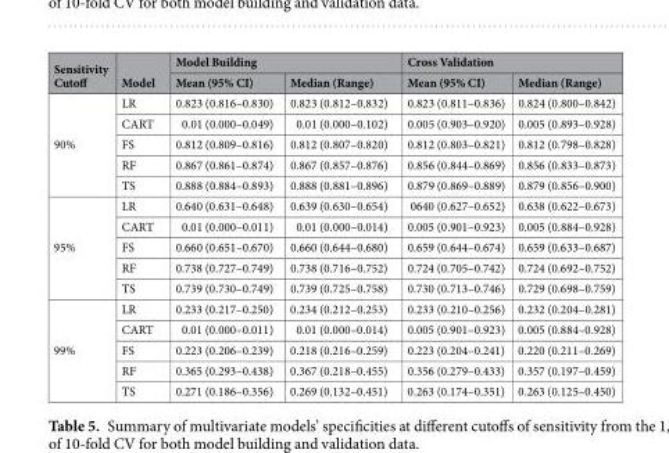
<table><thead><tr><td rowspan="2">Sensitivity Cutoff</td><td rowspan="2">Model</td><td colspan="2">Model Building</td><td colspan="2">Cross Validation</td></tr><tr><td>Mean (95% CI)</td><td>Median (Range)</td><td>Mean (95% CI)</td><td>Median (Range)</td></tr></thead><tbody><tr><td rowspan="5">90%</td><td>LR</td><td>0.823 (0.816–0.830)</td><td>0.823 (0.812–0.832)</td><td>0.823 (0.811–0.836)</td><td>0.824 (0.800–0.842)</td></tr><tr><td>CART</td><td>0.01 (0.000–0.049)</td><td>0.01 (0.000–0.102)</td><td>0.005 (0.903–0.920)</td><td>0.005 (0.893–0.928)</td></tr><tr><td>FS</td><td>0.812 (0.809–0.816)</td><td>0.812 (0.807–0.820)</td><td>0.812 (0.803–0.821)</td><td>0.812 (0.798–0.828)</td></tr><tr><td>RF</td><td>0.867 (0.861–0.874)</td><td>0.867 (0.857–0.876)</td><td>0.856 (0.844–0.869)</td><td>0.856 (0.833–0.873)</td></tr><tr><td>TS</td><td>0.888 (0.884–0.893)</td><td>0.888 (0.881–0.896)</td><td>0.879 (0.869–0.889)</td><td>0.879 (0.856–0.900)</td></tr><tr><td rowspan="5">95%</td><td>LR</td><td>0.640 (0.631–0.648)</td><td>0.639 (0.630–0.654)</td><td>0640 (0.627–0.652)</td><td>0.638 (0.622–0.673)</td></tr><tr><td>CART</td><td>0.01 (0.000–0.011)</td><td>0.01 (0.000–0.014)</td><td>0.005 (0.901–0.923)</td><td>0.005 (0.884–0.928)</td></tr><tr><td>FS</td><td>0.660 (0.651–0.670)</td><td>0.660 (0.644–0.680)</td><td>0.659 (0.644–0.674)</td><td>0.659 (0.633–0.687)</td></tr><tr><td>RF</td><td>0.738 (0.727–0.749)</td><td>0.738 (0.716–0.752)</td><td>0.724 (0.705–0.742)</td><td>0.724 (0.692–0.752)</td></tr><tr><td>TS</td><td>0.739 (0.730–0.749)</td><td>0.739 (0.725–0.758)</td><td>0.730 (0.713–0.746)</td><td>0.729 (0.698–0.759)</td></tr><tr><td rowspan="5">99%</td><td>LR</td><td>0.233 (0.217–0.250)</td><td>0.234 (0.212–0.253)</td><td>0.233 (0.210–0.256)</td><td>0.232 (0.204–0.281)</td></tr><tr><td>CART</td><td>0.01 (0.000–0.011)</td><td>0.01 (0.000–0.014)</td><td>0.005 (0.901–0.923)</td><td>0.005 (0.884–0.928)</td></tr><tr><td>FS</td><td>0.223 (0.206–0.239)</td><td>0.218 (0.216–0.259)</td><td>0.223 (0.204–0.241)</td><td>0.220 (0.211–0.269)</td></tr><tr><td>RF</td><td>0.365 (0.293–0.438)</td><td>0.367 (0.218–0.455)</td><td>0.356 (0.279–0.433)</td><td>0.357 (0.197–0.459)</td></tr><tr><td>TS</td><td>0.271 (0.186–0.356)</td><td>0.269 (0.132–0.451)</td><td>0.263 (0.174–0.351)</td><td>0.263 (0.125–0.450)</td></tr></tbody></table>